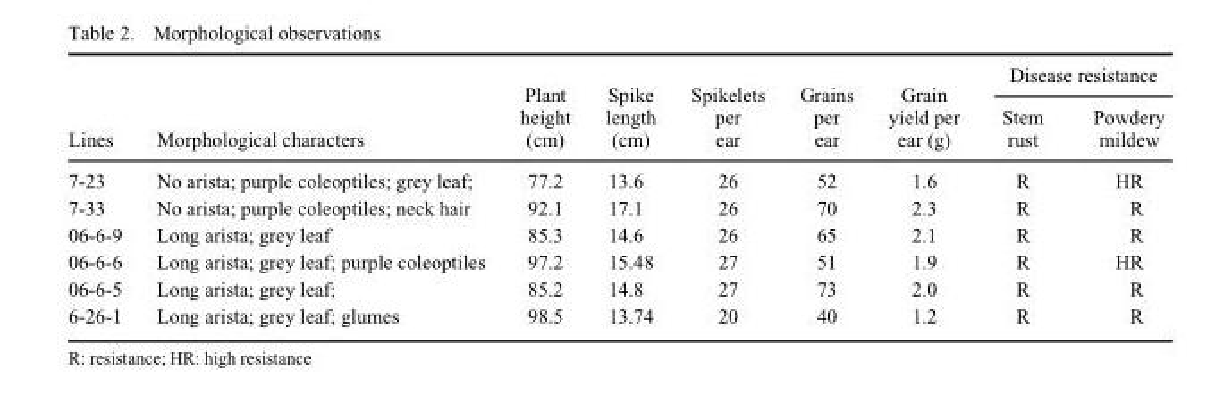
<table><thead><tr><td rowspan="2">Lines</td><td rowspan="2">Morphological characters</td><td rowspan="2">Plant height (cm)</td><td rowspan="2">Spike length (cm)</td><td rowspan="2">Spikelets per ear</td><td rowspan="2">Grains per ear</td><td rowspan="2">Grain yield per ear (g)</td><td colspan="2">Disease resistance</td></tr><tr><td>Stem rust</td><td>Powdery mildew</td></tr></thead><tbody><tr><td>7-23</td><td>No arista; purple coleoptiles; grey leaf;</td><td>77.2</td><td>13.6</td><td>26</td><td>52</td><td>1.6</td><td>R</td><td>HR</td></tr><tr><td>7-33</td><td>No arista; purple coleoptiles; neck hair</td><td>92.1</td><td>17.1</td><td>26</td><td>70</td><td>2.3</td><td>R</td><td>R</td></tr><tr><td>06-6-9</td><td>Long arista; grey leaf</td><td>85.3</td><td>14.6</td><td>26</td><td>65</td><td>2.1</td><td>R</td><td>R</td></tr><tr><td>06-6-6</td><td>Long arista; grey leaf; purple coleoptiles</td><td>97.2</td><td>15.48</td><td>27</td><td>51</td><td>1.9</td><td>R</td><td>HR</td></tr><tr><td>06-6-5</td><td>Long arista; grey leaf;</td><td>85.2</td><td>14.8</td><td>27</td><td>73</td><td>2.0</td><td>R</td><td>R</td></tr><tr><td>6-26-1</td><td>Long arista; grey leaf; glumes</td><td>98.5</td><td>13.74</td><td>20</td><td>40</td><td>1.2</td><td>R</td><td>R</td></tr></tbody></table>